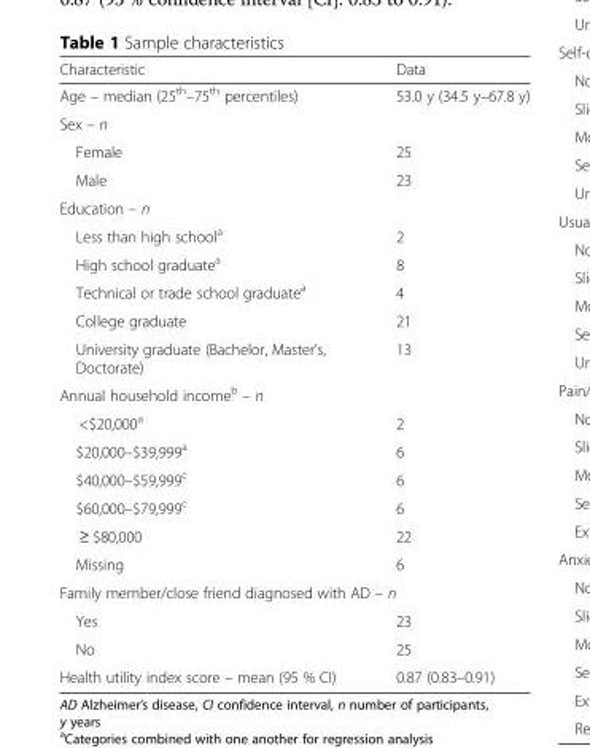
<table><thead><tr><td>Characteristic</td><td>Data</td></tr></thead><tbody><tr><td>Age – median (25<sup>th</sup>–75<sup>th</sup> percentiles)</td><td>53.0 y (34.5 y–67.8 y)</td></tr><tr><td colspan="2">Sex – n</td></tr><tr><td>Female</td><td>25</td></tr><tr><td>Male</td><td>23</td></tr><tr><td colspan="2">Education – n</td></tr><tr><td>Less than high school<sup>a</sup></td><td>2</td></tr><tr><td>High school graduate<sup>a</sup></td><td>8</td></tr><tr><td>Technical or trade school graduate<sup>a</sup></td><td>4</td></tr><tr><td>College graduate</td><td>21</td></tr><tr><td>University graduate (Bachelor, Master’s, Doctorate)</td><td>13</td></tr><tr><td colspan="2">Annual household income<sup>b</sup> – n</td></tr><tr><td>&lt;$20,000<sup>a</sup></td><td>2</td></tr><tr><td>$20,000–$39,999<sup>a</sup></td><td>6</td></tr><tr><td>$40,000–$59,999<sup>c</sup></td><td>6</td></tr><tr><td>$60,000–$79,999<sup>c</sup></td><td>6</td></tr><tr><td>≥ $80,000</td><td>22</td></tr><tr><td>Missing</td><td>6</td></tr><tr><td colspan="2">Family member/close friend diagnosed with AD – n</td></tr><tr><td>Yes</td><td>23</td></tr><tr><td>No</td><td>25</td></tr><tr><td>Health utility index score – mean (95 % CI)</td><td>0.87 (0.83–0.91)</td></tr></tbody></table>